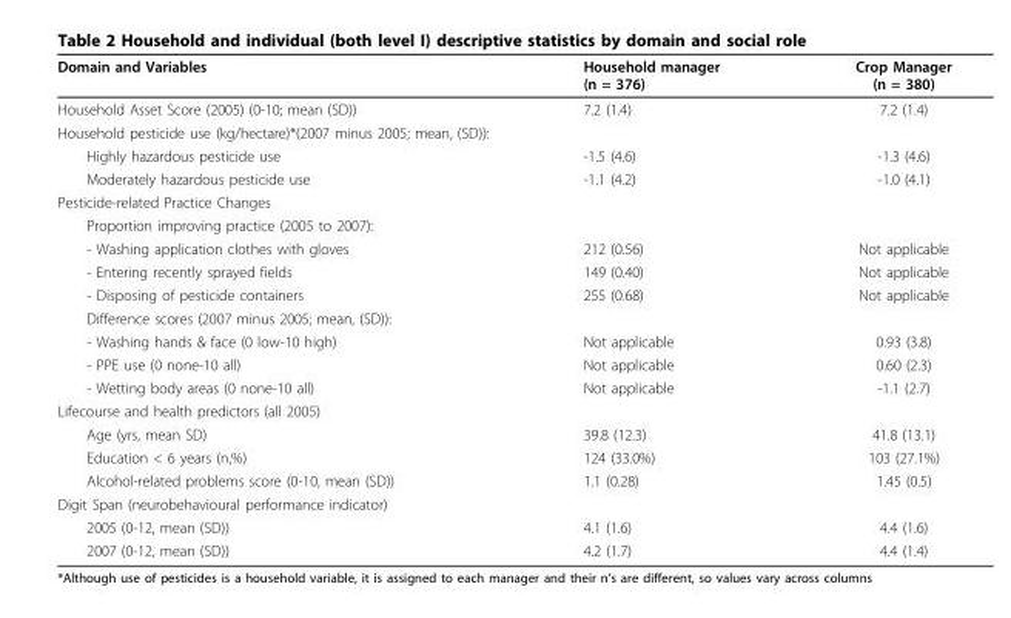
<table><thead><tr><td>Domain and Variables</td><td>Household manager (n = 376)</td><td>Crop Manager (n = 380)</td></tr></thead><tbody><tr><td>Household Asset Score (2005) (0-10; mean (SD))</td><td>7.2 (1.4)</td><td>7.2 (1.4)</td></tr><tr><td colspan="3">Household pesticide use (kg/hectare)*(2007 minus 2005; mean, (SD)):</td></tr><tr><td>Highly hazardous pesticide use</td><td>-1.5 (4.6)</td><td>-1.3 (4.6)</td></tr><tr><td>Moderately hazardous pesticide use</td><td>-1.1 (4.2)</td><td>-1.0 (4.1)</td></tr><tr><td colspan="3">Pesticide-related Practice Changes</td></tr><tr><td colspan="3">Proportion improving practice (2005 to 2007):</td></tr><tr><td>- Washing application clothes with gloves</td><td>212 (0.56)</td><td>Not applicable</td></tr><tr><td>- Entering recently sprayed fields</td><td>149 (0.40)</td><td>Not applicable</td></tr><tr><td>- Disposing of pesticide containers</td><td>255 (0.68)</td><td>Not applicable</td></tr><tr><td colspan="3">Difference scores (2007 minus 2005; mean, (SD)):</td></tr><tr><td>- Washing hands &amp; face (0 low-10 high)</td><td>Not applicable</td><td>0.93 (3.8)</td></tr><tr><td>- PPE use (0 none-10 all)</td><td>Not applicable</td><td>0.60 (2.3)</td></tr><tr><td>- Wetting body areas (0 none-10 all)</td><td>Not applicable</td><td>-1.1 (2.7)</td></tr><tr><td colspan="3">Lifecourse and health predictors (all 2005)</td></tr><tr><td>Age (yrs, mean SD)</td><td>39.8 (12.3)</td><td>41.8 (13.1)</td></tr><tr><td>Education &lt; 6 years (n,%)</td><td>124 (33.0%)</td><td>103 (27.1%)</td></tr><tr><td>Alcohol-related problems score (0-10, mean (SD))</td><td>1.1 (0.28)</td><td>1.45 (0.5)</td></tr><tr><td colspan="3">Digit Span (neurobehavioural performance indicator)</td></tr><tr><td>2005 (0-12, mean (SD))</td><td>4.1 (1.6)</td><td>4.4 (1.6)</td></tr><tr><td>2007 (0-12, mean (SD))</td><td>4.2 (1.7)</td><td>4.4 (1.4)</td></tr></tbody></table>